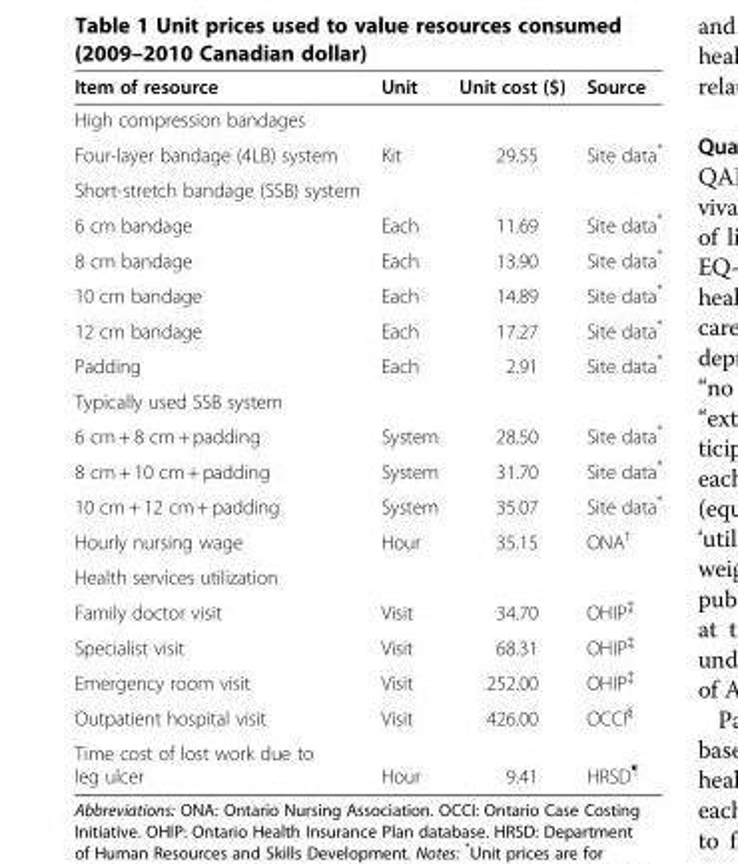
<table><thead><tr><td>Item of resource</td><td>Unit</td><td>Unit cost ($)</td><td>Source</td></tr></thead><tbody><tr><td colspan="4">High compression bandages</td></tr><tr><td>Four-layer bandage (4LB) system</td><td>Kit</td><td>29.55</td><td>Site data*</td></tr><tr><td colspan="4">Short-stretch bandage (SSB) system</td></tr><tr><td>6 cm bandage</td><td>Each</td><td>11.69</td><td>Site data*</td></tr><tr><td>8 cm bandage</td><td>Each</td><td>13.90</td><td>Site data*</td></tr><tr><td>10 cm bandage</td><td>Each</td><td>14.89</td><td>Site data*</td></tr><tr><td>12 cm bandage</td><td>Each</td><td>17.27</td><td>Site data*</td></tr><tr><td>Padding</td><td>Each</td><td>2.91</td><td>Site data*</td></tr><tr><td colspan="4">Typically used SSB system</td></tr><tr><td>6 cm + 8 cm + padding</td><td>System</td><td>28.50</td><td>Site data*</td></tr><tr><td>8 cm + 10 cm + padding</td><td>System</td><td>31.70</td><td>Site data*</td></tr><tr><td>10 cm + 12 cm + padding</td><td>System</td><td>35.07</td><td>Site data*</td></tr><tr><td>Hourly nursing wage</td><td>Hour</td><td>35.15</td><td>ONA<sup>†</sup></td></tr><tr><td colspan="4">Health services utilization</td></tr><tr><td>Family doctor visit</td><td>Visit</td><td>34.70</td><td>OHIP<sup>‡</sup></td></tr><tr><td>Specialist visit</td><td>Visit</td><td>68.31</td><td>OHIP<sup>‡</sup></td></tr><tr><td>Emergency room visit</td><td>Visit</td><td>252.00</td><td>OHIP<sup>‡</sup></td></tr><tr><td>Outpatient hospital visit</td><td>Visit</td><td>426.00</td><td>OCCI<sup>§</sup></td></tr><tr><td>Time cost of lost work due to leg ulcer</td><td>Hour</td><td>9.41</td><td>HRSD<sup>¶</sup></td></tr></tbody></table>